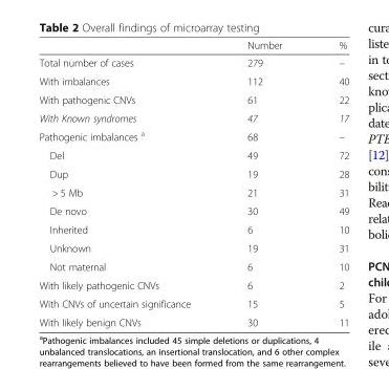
<table><thead><tr><td></td><td>Number</td><td>%</td></tr></thead><tbody><tr><td>Total number of cases</td><td>279</td><td>–</td></tr><tr><td>With imbalances</td><td>112</td><td>40</td></tr><tr><td>With pathogenic CNVs</td><td>61</td><td>22</td></tr><tr><td>With Known syndromes</td><td>47</td><td>17</td></tr><tr><td>Pathogenic imbalances <sup>a</sup></td><td>68</td><td>–</td></tr><tr><td>Del</td><td>49</td><td>72</td></tr><tr><td>Dup</td><td>19</td><td>28</td></tr><tr><td>&gt; 5 Mb</td><td>21</td><td>31</td></tr><tr><td>De novo</td><td>30</td><td>49</td></tr><tr><td>Inherited</td><td>6</td><td>10</td></tr><tr><td>Unknown</td><td>19</td><td>31</td></tr><tr><td>Not maternal</td><td>6</td><td>10</td></tr><tr><td>With likely pathogenic CNVs</td><td>6</td><td>2</td></tr><tr><td>With CNVs of uncertain significance</td><td>15</td><td>5</td></tr><tr><td>With likely benign CNVs</td><td>30</td><td>11</td></tr></tbody></table>